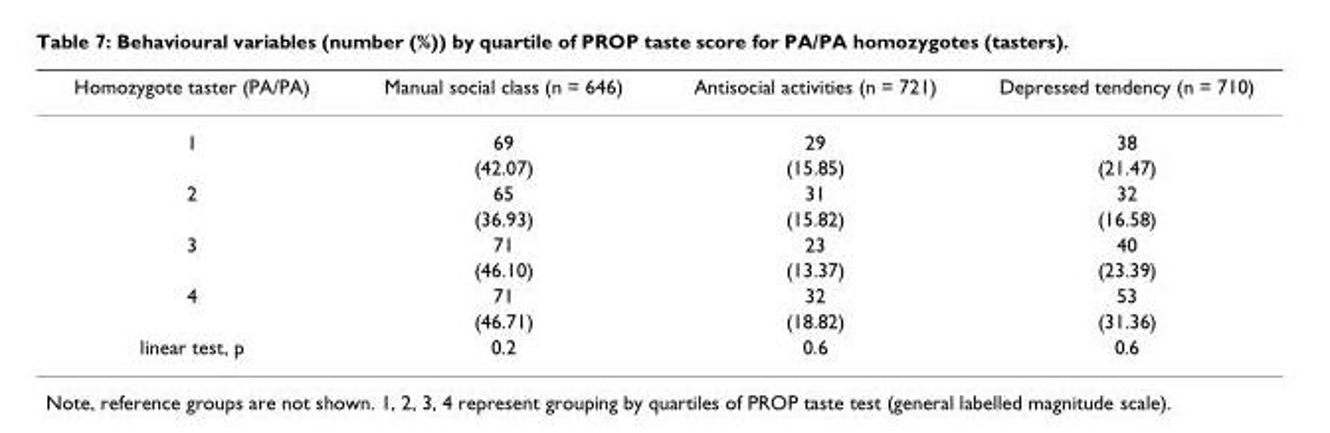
<table><thead><tr><td>Homozygote taster (PA/PA)</td><td>Manual social class (n = 646)</td><td>Antisocial activities (n = 721)</td><td>Depressed tendency (n = 710)</td></tr></thead><tbody><tr><td rowspan="2">1</td><td>69</td><td>29</td><td>38</td></tr><tr><td>(42.07)</td><td>(15.85)</td><td>(21.47)</td></tr><tr><td rowspan="2">2</td><td>65</td><td>31</td><td>32</td></tr><tr><td>(36.93)</td><td>(15.82)</td><td>(16.58)</td></tr><tr><td rowspan="2">3</td><td>71</td><td>23</td><td>40</td></tr><tr><td>(46.10)</td><td>(13.37)</td><td>(23.39)</td></tr><tr><td rowspan="2">4</td><td>71</td><td>32</td><td>53</td></tr><tr><td>(46.71)</td><td>(18.82)</td><td>(31.36)</td></tr><tr><td>linear test, p</td><td>0.2</td><td>0.6</td><td>0.6</td></tr></tbody></table>